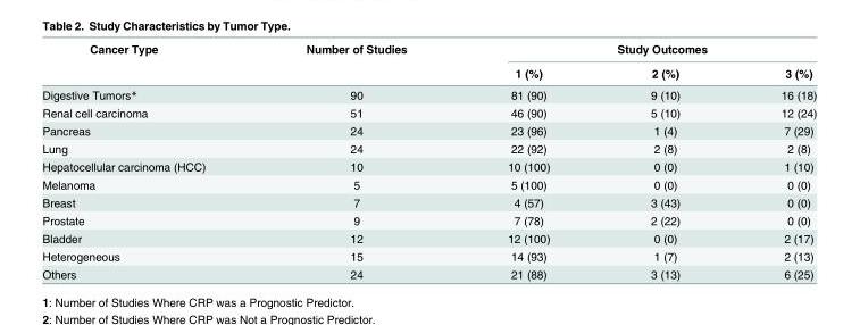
<table><thead><tr><td rowspan="2">Cancer Type</td><td rowspan="2">Number of Studies</td><td colspan="3">Study Outcomes</td></tr><tr><td>1 (%)</td><td>2 (%)</td><td>3 (%)</td></tr></thead><tbody><tr><td>Digestive Tumors*</td><td>90</td><td>81 (90)</td><td>9 (10)</td><td>16 (18)</td></tr><tr><td>Renal cell carcinoma</td><td>51</td><td>46 (90)</td><td>5 (10)</td><td>12 (24)</td></tr><tr><td>Pancreas</td><td>24</td><td>23 (96)</td><td>1 (4)</td><td>7 (29)</td></tr><tr><td>Lung</td><td>24</td><td>22 (92)</td><td>2 (8)</td><td>2 (8)</td></tr><tr><td>Hepatocellular carcinoma (HCC)</td><td>10</td><td>10 (100)</td><td>0 (0)</td><td>1 (10)</td></tr><tr><td>Melanoma</td><td>5</td><td>5 (100)</td><td>0 (0)</td><td>0 (0)</td></tr><tr><td>Breast</td><td>7</td><td>4 (57)</td><td>3 (43)</td><td>0 (0)</td></tr><tr><td>Prostate</td><td>9</td><td>7 (78)</td><td>2 (22)</td><td>0 (0)</td></tr><tr><td>Bladder</td><td>12</td><td>12 (100)</td><td>0 (0)</td><td>2 (17)</td></tr><tr><td>Heterogeneous</td><td>15</td><td>14 (93)</td><td>1 (7)</td><td>2 (13)</td></tr><tr><td>Others</td><td>24</td><td>21 (88)</td><td>3 (13)</td><td>6 (25)</td></tr></tbody></table>